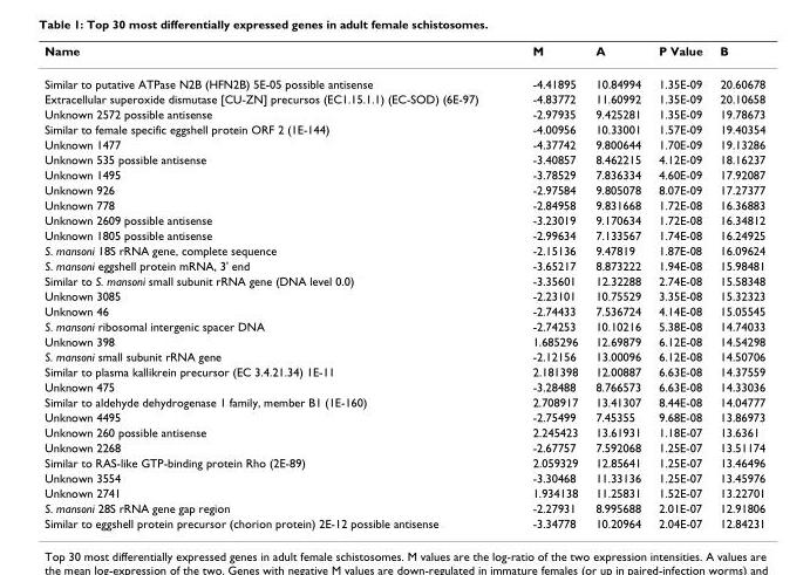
<table><thead><tr><td>Name</td><td>M</td><td>A</td><td>P Value</td><td>B</td></tr></thead><tbody><tr><td>Similar to putative ATPase N2B (HFN2B) 5E-05 possible antisense</td><td>-4.41895</td><td>10.84994</td><td>1.35E-09</td><td>20.60678</td></tr><tr><td>Extracellular superoxide dismutase [CU-ZN] precursos (EC1.15.1.1) (EC-SOD) (6E-97)</td><td>-4.83772</td><td>11.60992</td><td>1.35E-09</td><td>20.10658</td></tr><tr><td>Unknown 2572 possible antisense</td><td>-2.97935</td><td>9.425281</td><td>1.35E-09</td><td>19.78673</td></tr><tr><td>Similar to female specific eggshell protein ORF 2 (1E-144)</td><td>-4.00956</td><td>10.33001</td><td>1.57E-09</td><td>19.40354</td></tr><tr><td>Unknown 1477</td><td>-4.37742</td><td>9.800644</td><td>1.70E-09</td><td>19.13286</td></tr><tr><td>Unknown 535 possible antisense</td><td>-3.40857</td><td>8.462215</td><td>4.12E-09</td><td>18.16237</td></tr><tr><td>Unknown 1495</td><td>-3.78529</td><td>7.836334</td><td>4.60E-09</td><td>17.92087</td></tr><tr><td>Unknown 926</td><td>-2.97584</td><td>9.805078</td><td>8.07E-09</td><td>17.27377</td></tr><tr><td>Unknown 778</td><td>-2.84958</td><td>9.831668</td><td>1.72E-08</td><td>16.36883</td></tr><tr><td>Unknown 2609 possible antisense</td><td>-3.23019</td><td>9.170634</td><td>1.72E-08</td><td>16.34812</td></tr><tr><td>Unknown 1805 possible antisense</td><td>-2.99634</td><td>7.133567</td><td>1.74E-08</td><td>16.24925</td></tr><tr><td>S. mansoni 18S rRNA gene, complete sequence</td><td>-2.15136</td><td>9.47819</td><td>1.87E-08</td><td>16.09624</td></tr><tr><td>S. mansoni eggshell protein mRNA, 3&#x27; end</td><td>-3.65217</td><td>8.873222</td><td>1.94E-08</td><td>15.98481</td></tr><tr><td>Similar to S. mansoni small subunit rRNA gene (DNA level 0.0)</td><td>-3.35601</td><td>12.32288</td><td>2.74E-08</td><td>15.58348</td></tr><tr><td>Unknown 3085</td><td>-2.23101</td><td>10.75529</td><td>3.35E-08</td><td>15.32323</td></tr><tr><td>Unknown 46</td><td>-2.74433</td><td>7.536724</td><td>4.14E-08</td><td>15.05545</td></tr><tr><td>S. mansoni ribosomal intergenic spacer DNA</td><td>-2.74253</td><td>10.10216</td><td>5.38E-08</td><td>14.74033</td></tr><tr><td>Unknown 398</td><td>1.685296</td><td>12.69879</td><td>6.12E-08</td><td>14.54298</td></tr><tr><td>S. mansoni small subunit rRNA gene</td><td>-2.12156</td><td>13.00096</td><td>6.12E-08</td><td>14.50706</td></tr><tr><td>Similar to plasma kallikrein precursor (EC 3.4.21.34) 1E-11</td><td>2.181398</td><td>12.00887</td><td>6.63E-08</td><td>14.37559</td></tr><tr><td>Unknown 475</td><td>-3.28488</td><td>8.766573</td><td>6.63E-08</td><td>14.33036</td></tr><tr><td>Similar to aldehyde dehydrogenase 1 family, member B1 (1E-160)</td><td>2.708917</td><td>13.41307</td><td>8.44E-08</td><td>14.04777</td></tr><tr><td>Unknown 4495</td><td>-2.75499</td><td>7.45355</td><td>9.68E-08</td><td>13.86973</td></tr><tr><td>Unknown 260 possible antisense</td><td>2.245423</td><td>13.61931</td><td>1.18E-07</td><td>13.6361</td></tr><tr><td>Unknown 2268</td><td>-2.67757</td><td>7.592068</td><td>1.25E-07</td><td>13.51174</td></tr><tr><td>Similar to RAS-like GTP-binding protein Rho (2E-89)</td><td>2.059329</td><td>12.85641</td><td>1.25E-07</td><td>13.46496</td></tr><tr><td>Unknown 3554</td><td>-3.30468</td><td>11.33136</td><td>1.25E-07</td><td>13.45976</td></tr><tr><td>Unknown 2741</td><td>1.934138</td><td>11.25831</td><td>1.52E-07</td><td>13.22701</td></tr><tr><td>S. mansoni 28S rRNA gene gap region</td><td>-2.27931</td><td>8.995688</td><td>2.01E-07</td><td>12.91806</td></tr><tr><td>Similar to eggshell protein precursor (chorion protein) 2E-12 possible antisense</td><td>-3.34778</td><td>10.20964</td><td>2.04E-07</td><td>12.84231</td></tr></tbody></table>